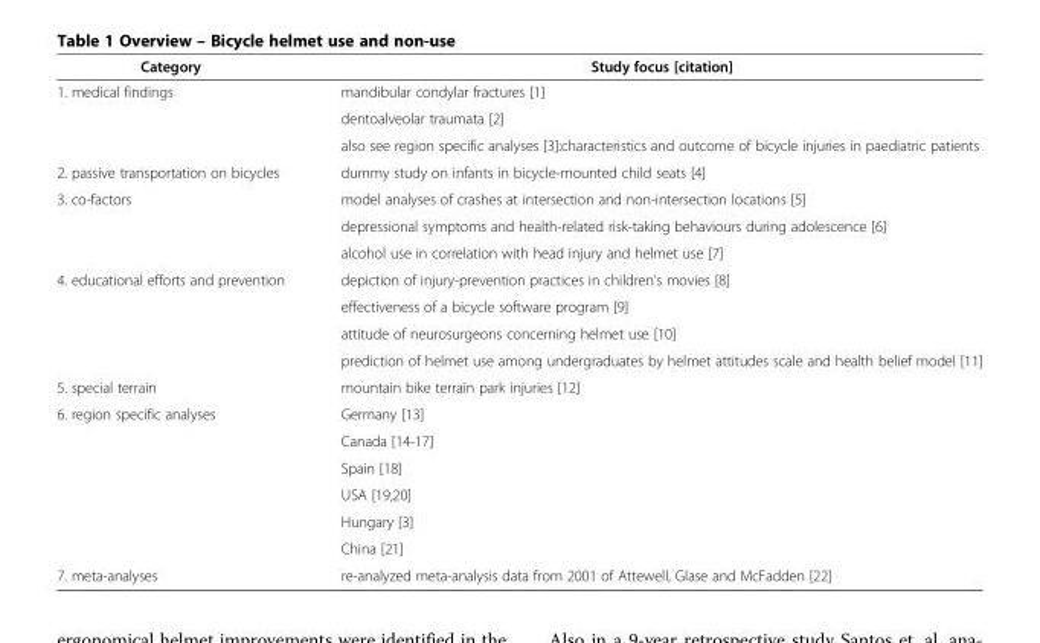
<table><thead><tr><td>Category</td><td>Study focus [citation]</td></tr></thead><tbody><tr><td rowspan="3">1. medical findings</td><td>mandibular condylar fractures [1]</td></tr><tr><td>dentoalveolar traumata [2]</td></tr><tr><td>also see region specific analyses [3]:characteristics and outcome of bicycle injuries in paediatric patients</td></tr><tr><td>2. passive transportation on bicycles</td><td>dummy study on infants in bicycle-mounted child seats [4]</td></tr><tr><td rowspan="3">3. co-factors</td><td>model analyses of crashes at intersection and non-intersection locations [5]</td></tr><tr><td>depressional symptoms and health-related risk-taking behaviours during adolescence [6]</td></tr><tr><td>alcohol use in correlation with head injury and helmet use [7]</td></tr><tr><td rowspan="4">4. educational efforts and prevention</td><td>depiction of injury-prevention practices in children’s movies [8]</td></tr><tr><td>effectiveness of a bicycle software program [9]</td></tr><tr><td>attitude of neurosurgeons concerning helmet use [10]</td></tr><tr><td>prediction of helmet use among undergraduates by helmet attitudes scale and health belief model [11]</td></tr><tr><td>5. special terrain</td><td>mountain bike terrain park injuries [12]</td></tr><tr><td rowspan="6">6. region specific analyses</td><td>Germany [13]</td></tr><tr><td>Canada [14-17]</td></tr><tr><td>Spain [18]</td></tr><tr><td>USA [19,20]</td></tr><tr><td>Hungary [3]</td></tr><tr><td>China [21]</td></tr><tr><td>7. meta-analyses</td><td>re-analyzed meta-analysis data from 2001 of Attewell, Glase and McFadden [22]</td></tr></tbody></table>